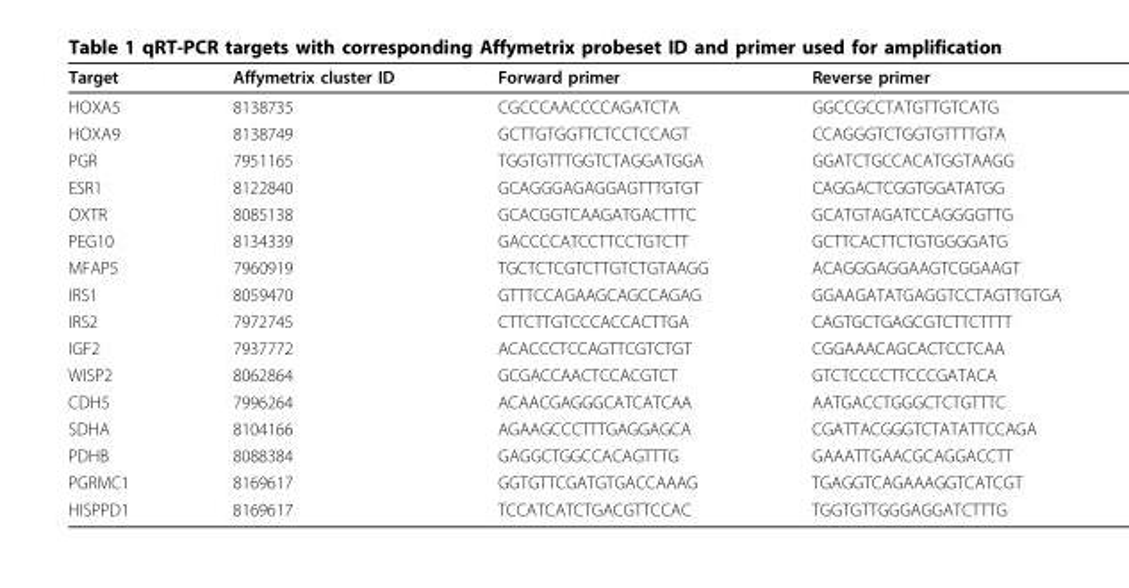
<table><thead><tr><td>Target</td><td>Affymetrix cluster ID</td><td>Forward primer</td><td>Reverse primer</td></tr></thead><tbody><tr><td>HOXA5</td><td>8138735</td><td>CGCCCAACCCCAGATCTA</td><td>GGCCGCCTATGTTGTCATG</td></tr><tr><td>HOXA9</td><td>8138749</td><td>GCTTGTGGTTCTCCTCCAGT</td><td>CCAGGGTCTGGTGTTTTGTA</td></tr><tr><td>PGR</td><td>7951165</td><td>TGGTGTTTGGTCTAGGATGGA</td><td>GGATCTGCCACATGGTAAGG</td></tr><tr><td>ESR1</td><td>8122840</td><td>GCAGGGAGAGGAGTTTGTGT</td><td>CAGGACTCGGTGGATATGG</td></tr><tr><td>OXTR</td><td>8085138</td><td>GCACGGTCAAGATGACTTTC</td><td>GCATGTAGATCCAGGGGTTG</td></tr><tr><td>PEG10</td><td>8134339</td><td>GACCCCATCCTTCCTGTCTT</td><td>GCTTCACTTCTGTGGGGATG</td></tr><tr><td>MFAP5</td><td>7960919</td><td>TGCTCTCGTCTTGTCTGTAAGG</td><td>ACAGGGAGGAAGTCGGAAGT</td></tr><tr><td>IRS1</td><td>8059470</td><td>GTTTCCAGAAGCAGCCAGAG</td><td>GGAAGATATGAGGTCCTAGTTGTGA</td></tr><tr><td>IRS2</td><td>7972745</td><td>CTTCTTGTCCCACCACTTGA</td><td>CAGTGCTGAGCGTCTTCTTTT</td></tr><tr><td>IGF2</td><td>7937772</td><td>ACACCCTCCAGTTCGTCTGT</td><td>CGGAAACAGCACTCCTCAA</td></tr><tr><td>WISP2</td><td>8062864</td><td>GCGACCAACTCCACGTCT</td><td>GTCTCCCCTTCCCGATACA</td></tr><tr><td>CDH5</td><td>7996264</td><td>ACAACGAGGGCATCATCAA</td><td>AATGACCTGGGCTCTGTTTC</td></tr><tr><td>SDHA</td><td>8104166</td><td>AGAAGCCCTTTGAGGAGCA</td><td>CGATTACGGGTCTATATTCCAGA</td></tr><tr><td>PDHB</td><td>8088384</td><td>GAGGCTGGCCACAGTTTG</td><td>GAAATTGAACGCAGGACCTT</td></tr><tr><td>PGRMC1</td><td>8169617</td><td>GGTGTTCGATGTGACCAAAG</td><td>TGAGGTCAGAAAGGTCATCGT</td></tr><tr><td>HISPPD1</td><td>8169617</td><td>TCCATCATCTGACGTTCCAC</td><td>TGGTGTTGGGAGGATCTTTG</td></tr></tbody></table>